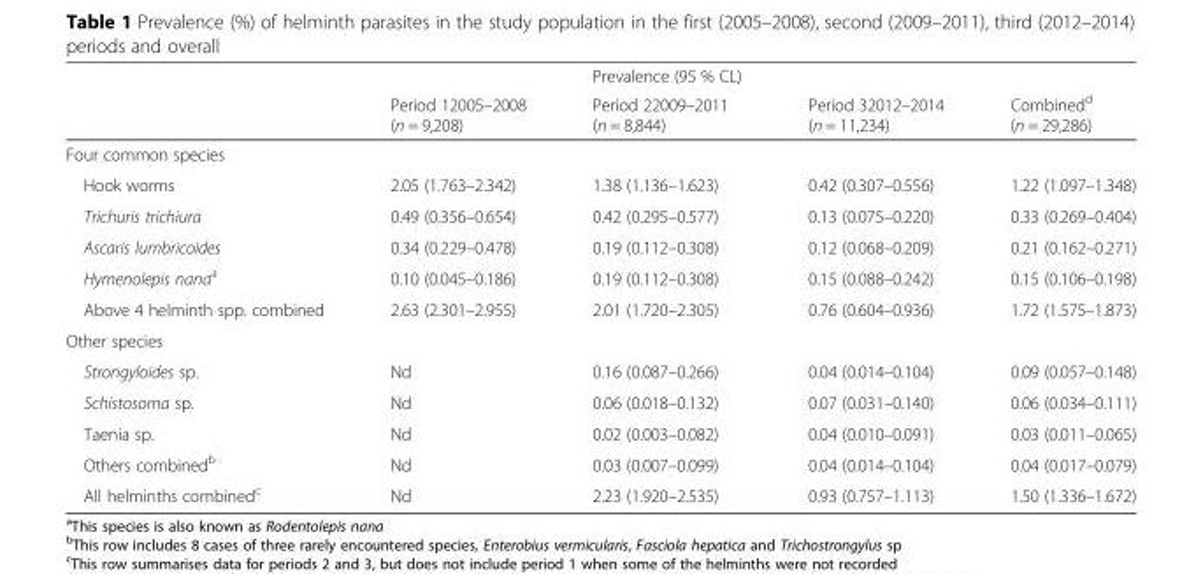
<table><thead><tr><td rowspan="2"></td><td rowspan="2">Period 12005–2008 (n = 9,208)</td><td rowspan="2">Prevalence (95 % CL) Period 22009–2011 (n = 8,844)</td><td rowspan="2">Period 32012–2014 (n = 11,234)</td><td rowspan="2">Combined<sup>d</sup> (n = 29,286)</td></tr><tr></tr></thead><tbody><tr><td colspan="5">Four common species</td></tr><tr><td>Hook worms</td><td>2.05 (1.763–2.342)</td><td>1.38 (1.136–1.623)</td><td>0.42 (0.307–0.556)</td><td>1.22 (1.097–1.348)</td></tr><tr><td>Trichuris trichiura</td><td>0.49 (0.356–0.654)</td><td>0.42 (0.295–0.577)</td><td>0.13 (0.075–0.220)</td><td>0.33 (0.269–0.404)</td></tr><tr><td>Ascaris lumbricoides</td><td>0.34 (0.229–0.478)</td><td>0.19 (0.112–0.308)</td><td>0.12 (0.068–0.209)</td><td>0.21 (0.162–0.271)</td></tr><tr><td>Hymenolepis nana<sup>a</sup></td><td>0.10 (0.045–0.186)</td><td>0.19 (0.112–0.308)</td><td>0.15 (0.088–0.242)</td><td>0.15 (0.106–0.198)</td></tr><tr><td>Above 4 helminth spp. combined</td><td>2.63 (2.301–2.955)</td><td>2.01 (1.720–2.305)</td><td>0.76 (0.604–0.936)</td><td>1.72 (1.575–1.873)</td></tr><tr><td colspan="5">Other species</td></tr><tr><td>Strongyloides sp.</td><td>Nd</td><td>0.16 (0.087–0.266)</td><td>0.04 (0.014–0.104)</td><td>0.09 (0.057–0.148)</td></tr><tr><td>Schistosoma sp.</td><td>Nd</td><td>0.06 (0.018–0.132)</td><td>0.07 (0.031–0.140)</td><td>0.06 (0.034–0.111)</td></tr><tr><td>Taenia sp.</td><td>Nd</td><td>0.02 (0.003–0.082)</td><td>0.04 (0.010–0.091)</td><td>0.03 (0.011–0.065)</td></tr><tr><td>Others combined<sup>b</sup></td><td>Nd</td><td>0.03 (0.007–0.099)</td><td>0.04 (0.014–0.104)</td><td>0.04 (0.017–0.079)</td></tr><tr><td>All helminths combined<sup>c</sup></td><td>Nd</td><td>2.23 (1.920–2.535)</td><td>0.93 (0.757–1.113)</td><td>1.50 (1.336–1.672)</td></tr></tbody></table>